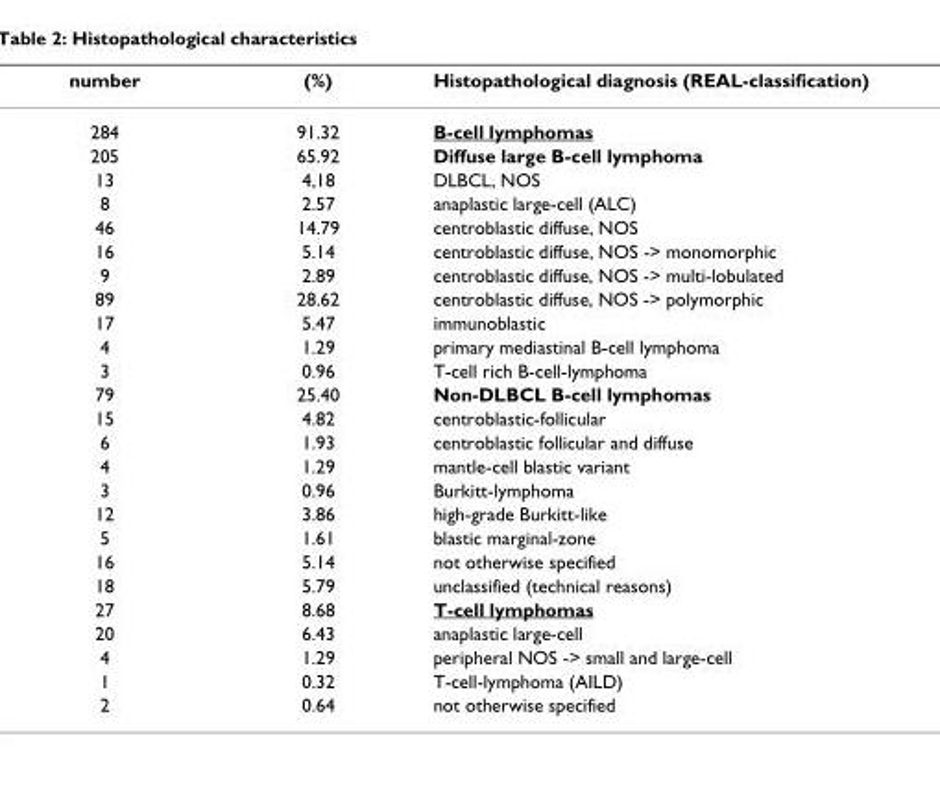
<table><thead><tr><td>number</td><td>(%)</td><td>Histopathological diagnosis (REAL-classification)</td></tr></thead><tbody><tr><td>284</td><td>91.32</td><td>B-cell lymphomas</td></tr><tr><td>205</td><td>65.92</td><td>Diffuse large B-cell lymphoma</td></tr><tr><td>13</td><td>4,18</td><td>DLBCL, NOS</td></tr><tr><td>8</td><td>2.57</td><td>anaplastic large-cell (ALC)</td></tr><tr><td>46</td><td>14.79</td><td>centroblastic diffuse, NOS</td></tr><tr><td>16</td><td>5.14</td><td>centroblastic diffuse, NOS -&gt; monomorphic</td></tr><tr><td>9</td><td>2.89</td><td>centroblastic diffuse, NOS -&gt; multi-lobulated</td></tr><tr><td>89</td><td>28.62</td><td>centroblastic diffuse, NOS -&gt; polymorphic</td></tr><tr><td>17</td><td>5.47</td><td>immunoblastic</td></tr><tr><td>4</td><td>1.29</td><td>primary mediastinal B-cell lymphoma</td></tr><tr><td>3</td><td>0.96</td><td>T-cell rich B-cell-lymphoma</td></tr><tr><td>79</td><td>25.40</td><td>Non-DLBCL B-cell lymphomas</td></tr><tr><td>15</td><td>4.82</td><td>centroblastic-follicular</td></tr><tr><td>6</td><td>1.93</td><td>centroblastic follicular and diffuse</td></tr><tr><td>4</td><td>1.29</td><td>mantle-cell blastic variant</td></tr><tr><td>3</td><td>0.96</td><td>Burkitt-lymphoma</td></tr><tr><td>12</td><td>3.86</td><td>high-grade Burkitt-like</td></tr><tr><td>5</td><td>1.61</td><td>blastic marginal-zone</td></tr><tr><td>16</td><td>5.14</td><td>not otherwise specified</td></tr><tr><td>18</td><td>5.79</td><td>unclassified (technical reasons)</td></tr><tr><td>27</td><td>8.68</td><td>T-cell lymphomas</td></tr><tr><td>20</td><td>6.43</td><td>anaplastic large-cell</td></tr><tr><td>4</td><td>1.29</td><td>peripheral NOS -&gt; small and large-cell</td></tr><tr><td>1</td><td>0.32</td><td>T-cell-lymphoma (AILD)</td></tr><tr><td>2</td><td>0.64</td><td>not otherwise specified</td></tr></tbody></table>